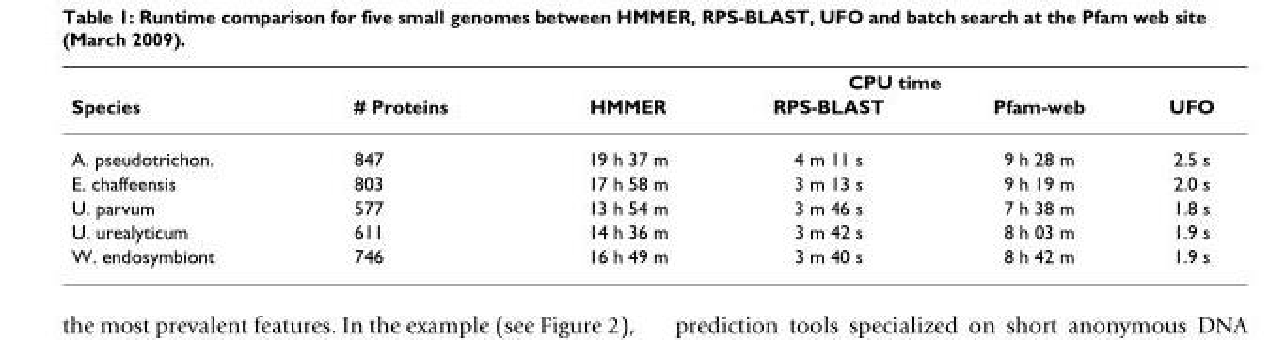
<table><thead><tr><td rowspan="2">Species</td><td rowspan="2"># Proteins</td><td colspan="4">CPU time</td></tr><tr><td>HMMER</td><td>RPS-BLAST</td><td>Pfam-web</td><td>UFO</td></tr></thead><tbody><tr><td>A. pseudotrichon.</td><td>847</td><td>19 h 37 m</td><td>4 m 11 s</td><td>9 h 28 m</td><td>2.5 s</td></tr><tr><td>E. chaffeensis</td><td>803</td><td>17 h 58 m</td><td>3 m 13 s</td><td>9 h 19 m</td><td>2.0 s</td></tr><tr><td>U. parvum</td><td>577</td><td>13 h 54 m</td><td>3 m 46 s</td><td>7 h 38 m</td><td>1.8 s</td></tr><tr><td>U. urealyticum</td><td>611</td><td>14 h 36 m</td><td>3 m 42 s</td><td>8 h 03 m</td><td>1.9 s</td></tr><tr><td>W. endosymbiont</td><td>746</td><td>16 h 49 m</td><td>3 m 40 s</td><td>8 h 42 m</td><td>1.9 s</td></tr></tbody></table>